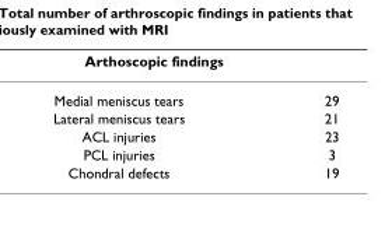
<table><thead><tr><td colspan="2">Arthoscopic findings</td></tr><tr><td>Medial meniscus tears</td><td>29</td></tr></thead><tbody><tr><td>Lateral meniscus tears</td><td>21</td></tr><tr><td>ACL injuries</td><td>23</td></tr><tr><td>PCL injuries</td><td>3</td></tr><tr><td>Chondral defects</td><td>19</td></tr></tbody></table>